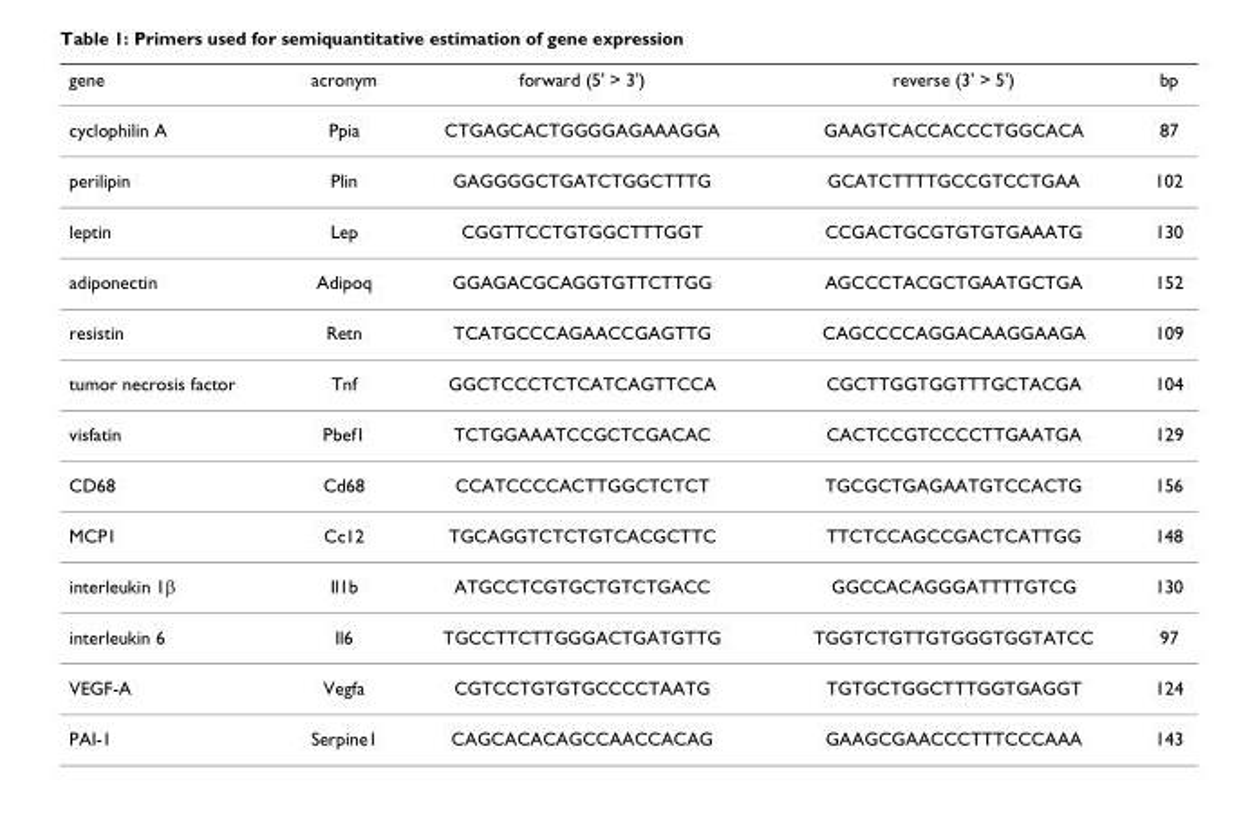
<table><thead><tr><td>gene</td><td>acronym</td><td>forward (5&#x27; &gt; 3&#x27;)</td><td>reverse (3&#x27; &gt; 5&#x27;)</td><td>bp</td></tr></thead><tbody><tr><td>cyclophilin A</td><td>Ppia</td><td>CTGAGCACTGGGGAGAAAGGA</td><td>GAAGTCACCACCCTGGCACA</td><td>87</td></tr><tr><td>perilipin</td><td>Plin</td><td>GAGGGGCTGATCTGGCTTTG</td><td>GCATCTTTTGCCGTCCTGAA</td><td>102</td></tr><tr><td>leptin</td><td>Lep</td><td>CGGTTCCTGTGGCTTTGGT</td><td>CCGACTGCGTGTGTGAAATG</td><td>130</td></tr><tr><td>adiponectin</td><td>Adipoq</td><td>GGAGACGCAGGTGTTCTTGG</td><td>AGCCCTACGCTGAATGCTGA</td><td>152</td></tr><tr><td>resistin</td><td>Retn</td><td>TCATGCCCAGAACCGAGTTG</td><td>CAGCCCCAGGACAAGGAAGA</td><td>109</td></tr><tr><td>tumor necrosis factor</td><td>Tnf</td><td>GGCTCCCTCTCATCAGTTCCA</td><td>CGCTTGGTGGTTTGCTACGA</td><td>104</td></tr><tr><td>visfatin</td><td>Pbef1</td><td>TCTGGAAATCCGCTCGACAC</td><td>CACTCCGTCCCCTTGAATGA</td><td>129</td></tr><tr><td>CD68</td><td>Cd68</td><td>CCATCCCCACTTGGCTCTCT</td><td>TGCGCTGAGAATGTCCACTG</td><td>156</td></tr><tr><td>MCP1</td><td>Cc12</td><td>TGCAGGTCTCTGTCACGCTTC</td><td>TTCTCCAGCCGACTCATTGG</td><td>148</td></tr><tr><td>interleukin 1β</td><td>Il1b</td><td>ATGCCTCGTGCTGTCTGACC</td><td>GGCCACAGGGATTTTGTCG</td><td>130</td></tr><tr><td>interleukin 6</td><td>Il6</td><td>TGCCTTCTTGGGACTGATGTTG</td><td>TGGTCTGTTGTGGGTGGTATCC</td><td>97</td></tr><tr><td>VEGF-A</td><td>Vegfa</td><td>CGTCCTGTGTGCCCCTAATG</td><td>TGTGCTGGCTTTGGTGAGGT</td><td>124</td></tr><tr><td>PAI-1</td><td>Serpine1</td><td>CAGCACACAGCCAACCACAG</td><td>GAAGCGAACCCTTTCCCAAA</td><td>143</td></tr></tbody></table>